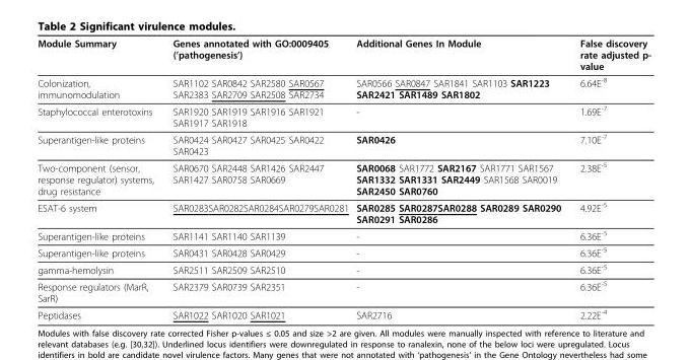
<table><thead><tr><td>Module Summary</td><td>Genes annotated with GO:0009405 (’pathogenesis’)</td><td>Additional Genes In Module</td><td>False discovery rate adjusted p- value</td></tr></thead><tbody><tr><td>Colonization, immunomodulation</td><td>SAR1102 SAR0842 SAR2580 SAR0567 SAR2383 SAR2709 SAR2508 SAR2734</td><td>SAR0566 SAR0847 SAR1841 SAR1103 SAR1223 SAR2421 SAR1489 SAR1802</td><td>6.64E<sup>-8</sup></td></tr><tr><td>Staphylococcal enterotoxins</td><td>SAR1920 SAR1919 SAR1916 SAR1921 SAR1917 SAR1918</td><td>-</td><td>1.69E<sup>-7</sup></td></tr><tr><td>Superantigen-like proteins</td><td>SAR0424 SAR0427 SAR0425 SAR0422 SAR0423</td><td>SAR0426</td><td>7.10E<sup>-7</sup></td></tr><tr><td>Two-component (sensor, response regulator) systems, drug resistance</td><td>SAR0670 SAR2448 SAR1426 SAR2447 SAR1427 SAR0758 SAR0669</td><td>SAR0068 SAR1772 SAR2167 SAR1771 SAR1567 SAR1332 SAR1331 SAR2449 SAR1568 SAR0019 SAR2450 SAR0760</td><td>2.38E<sup>-5</sup></td></tr><tr><td>ESAT-6 system</td><td>SAR0283SAR0282SAR0284SAR0279SAR0281</td><td>SAR0285 SAR0287SAR0288 SAR0289 SAR0290 SAR0291 SAR0286</td><td>4.92E<sup>-5</sup></td></tr><tr><td>Superantigen-like proteins</td><td>SAR1141 SAR1140 SAR1139</td><td>-</td><td>6.36E<sup>-5</sup></td></tr><tr><td>Superantigen-like proteins</td><td>SAR0431 SAR0428 SAR0429</td><td>-</td><td>6.36E<sup>-5</sup></td></tr><tr><td>gamma-hemolysin</td><td>SAR2511 SAR2509 SAR2510</td><td>-</td><td>6.36E<sup>-5</sup></td></tr><tr><td>Response regulators (MarR, SarR)</td><td>SAR2379 SAR0739 SAR2351</td><td>-</td><td>6.36E<sup>-5</sup></td></tr><tr><td>Peptidases</td><td>SAR1022 SAR1020 SAR1021</td><td>SAR2716</td><td>2.22E<sup>-4</sup></td></tr></tbody></table>